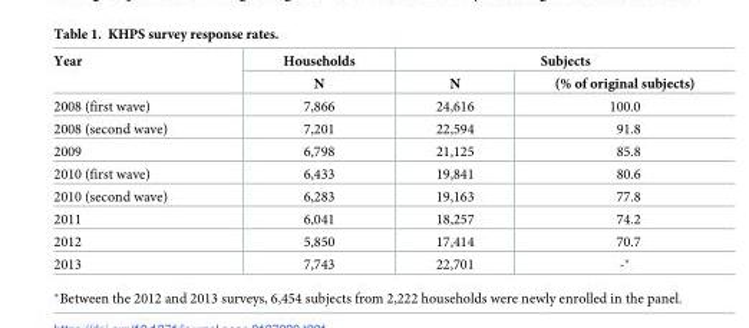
<table><thead><tr><td rowspan="2">Year</td><td rowspan="2">Households N</td><td colspan="2">Subjects</td></tr><tr><td>N</td><td>(% of original subjects)</td></tr></thead><tbody><tr><td>2008 (first wave)</td><td>7,866</td><td>24,616</td><td>100.0</td></tr><tr><td>2008 (second wave)</td><td>7,201</td><td>22,594</td><td>91.8</td></tr><tr><td>2009</td><td>6,798</td><td>21,125</td><td>85.8</td></tr><tr><td>2010 (first wave)</td><td>6,433</td><td>19,841</td><td>80.6</td></tr><tr><td>2010 (second wave)</td><td>6,283</td><td>19,163</td><td>77.8</td></tr><tr><td>2011</td><td>6,041</td><td>18,257</td><td>74.2</td></tr><tr><td>2012</td><td>5,850</td><td>17,414</td><td>70.7</td></tr><tr><td>2013</td><td>7,743</td><td>22,701</td><td>-*</td></tr></tbody></table>